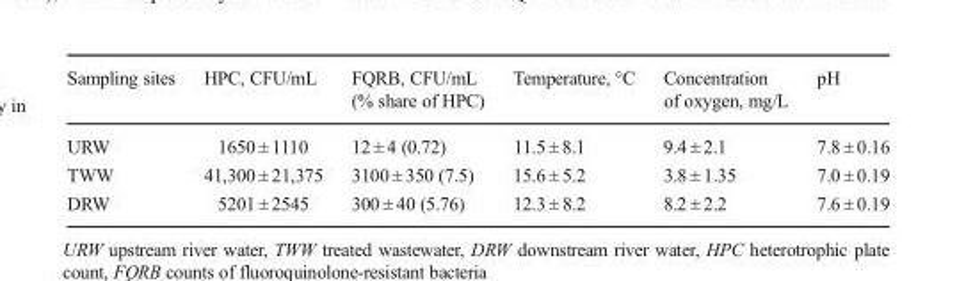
<table><thead><tr><td>Sampling sites</td><td>HPC, CFU/mL</td><td>FQRB, CFU/mL (% share of HPC)</td><td>Temperature, °C</td><td>Concentration of oxygen, mg/L</td><td>pH</td></tr></thead><tbody><tr><td>URW</td><td>1650 ± 1110</td><td>12 ± 4 (0.72)</td><td>11.5 ± 8.1</td><td>9.4 ± 2.1</td><td>7.8 ± 0.16</td></tr><tr><td>TWW</td><td>41,300 ± 21,375</td><td>3100 ± 350 (7.5)</td><td>15.6 ± 5.2</td><td>3.8 ± 1.35</td><td>7.0 ± 0.19</td></tr><tr><td>DRW</td><td>5201 ± 2545</td><td>300 ± 40 (5.76)</td><td>12.3 ± 8.2</td><td>8.2 ± 2.2</td><td>7.6 ± 0.19</td></tr></tbody></table>